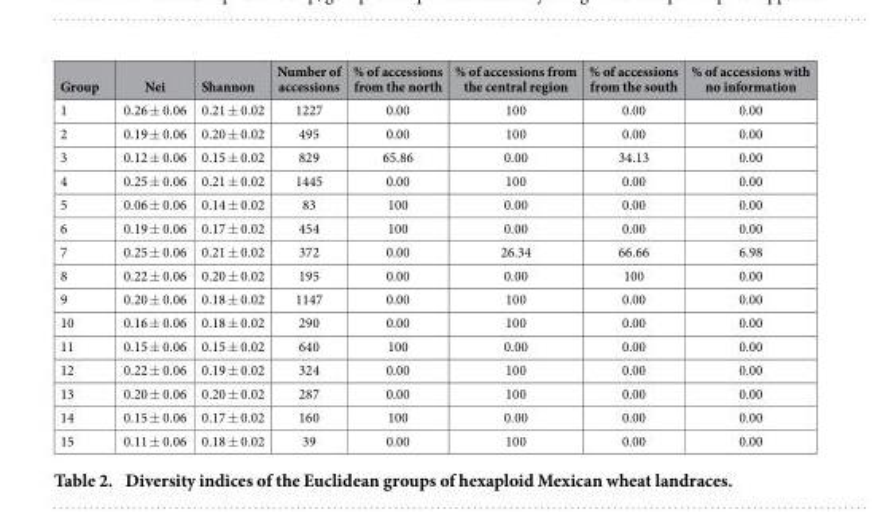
<table><thead><tr><td>Group</td><td>Nei</td><td>Shannon</td><td>Number of accessions</td><td>% of accessions from the north</td><td>% of accessions from the central region</td><td>% of accessions from the south</td><td>% of accessions with no information</td></tr></thead><tbody><tr><td>1</td><td>0.26 ± 0.06</td><td>0.21 ± 0.02</td><td>1227</td><td>0.00</td><td>100</td><td>0.00</td><td>0.00</td></tr><tr><td>2</td><td>0.19 ± 0.06</td><td>0.20 ± 0.02</td><td>495</td><td>0.00</td><td>100</td><td>0.00</td><td>0.00</td></tr><tr><td>3</td><td>0.12 ± 0.06</td><td>0.15 ± 0.02</td><td>829</td><td>65.86</td><td>0.00</td><td>34.13</td><td>0.00</td></tr><tr><td>4</td><td>0.25 ± 0.06</td><td>0.21 ± 0.02</td><td>1445</td><td>0.00</td><td>100</td><td>0.00</td><td>0.00</td></tr><tr><td>5</td><td>0.06 ± 0.06</td><td>0.14 ± 0.02</td><td>83</td><td>100</td><td>0.00</td><td>0.00</td><td>0.00</td></tr><tr><td>6</td><td>0.19 ± 0.06</td><td>0.17 ± 0.02</td><td>454</td><td>100</td><td>0.00</td><td>0.00</td><td>0.00</td></tr><tr><td>7</td><td>0.25 ± 0.06</td><td>0.21 ± 0.02</td><td>372</td><td>0.00</td><td>26.34</td><td>66.66</td><td>6.98</td></tr><tr><td>8</td><td>0.22 ± 0.06</td><td>0.20 ± 0.02</td><td>195</td><td>0.00</td><td>0.00</td><td>100</td><td>0.00</td></tr><tr><td>9</td><td>0.20 ± 0.06</td><td>0.18 ± 0.02</td><td>1147</td><td>0.00</td><td>100</td><td>0.00</td><td>0.00</td></tr><tr><td>10</td><td>0.16 ± 0.06</td><td>0.18 ± 0.02</td><td>290</td><td>0.00</td><td>100</td><td>0.00</td><td>0.00</td></tr><tr><td>11</td><td>0.15 ± 0.06</td><td>0.15 ± 0.02</td><td>640</td><td>100</td><td>0.00</td><td>0.00</td><td>0.00</td></tr><tr><td>12</td><td>0.22 ± 0.06</td><td>0.19 ± 0.02</td><td>324</td><td>0.00</td><td>100</td><td>0.00</td><td>0.00</td></tr><tr><td>13</td><td>0.20 ± 0.06</td><td>0.20 ± 0.02</td><td>287</td><td>0.00</td><td>100</td><td>0.00</td><td>0.00</td></tr><tr><td>14</td><td>0.15 ± 0.06</td><td>0.17 ± 0.02</td><td>160</td><td>100</td><td>0.00</td><td>0.00</td><td>0.00</td></tr><tr><td>15</td><td>0.11 ± 0.06</td><td>0.18 ± 0.02</td><td>39</td><td>0.00</td><td>100</td><td>0.00</td><td>0.00</td></tr></tbody></table>